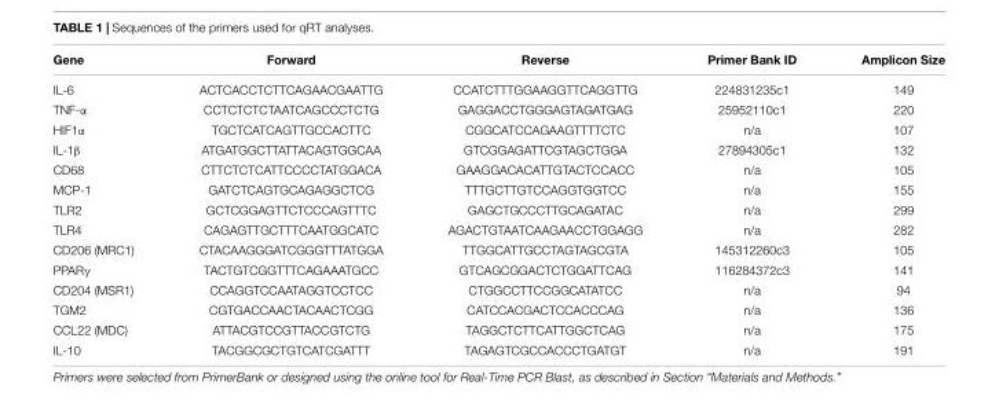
<table><thead><tr><td>Gene</td><td>Forward</td><td>Reverse</td><td>Primer Bank ID</td><td>Amplicon Size</td></tr></thead><tbody><tr><td>IL-6</td><td>ACTCACCTCTTCAGAACGAATTG</td><td>CCATCTTTGGAAGGTTCAGGTTG</td><td>224831235c1</td><td>149</td></tr><tr><td>TNF-α</td><td>CCTCTCTCTAATCAGCCCTCTG</td><td>GAGGACCTGGGAGTAGATGAG</td><td>25952110c1</td><td>220</td></tr><tr><td>HIF1α</td><td>TGCTCATCAGTTGCCACTTC</td><td>CGGCATCCAGAAGTTTTCTC</td><td>n/a</td><td>107</td></tr><tr><td>IL-1β</td><td>ATGATGGCTTATTACAGTGGCAA</td><td>GTCGGAGATTCGTAGCTGGA</td><td>27894305c1</td><td>132</td></tr><tr><td>CD68</td><td>CTTCTCTCATTCCCCTATGGACA</td><td>GAAGGACACATTGTACTCCACC</td><td>n/a</td><td>105</td></tr><tr><td>MCP-1</td><td>GATCTCAGTGCAGAGGCTCG</td><td>TTTGCTTGTCCAGGTGGTCC</td><td>n/a</td><td>155</td></tr><tr><td>TLR2</td><td>GCTCGGAGTTCTCCCAGTTTC</td><td>GAGCTGCCCTTGCAGATAC</td><td>n/a</td><td>299</td></tr><tr><td>TLR4</td><td>CAGAGTTGCTTTCAATGGCATC</td><td>AGACTGTAATCAAGAACCTGGAGG</td><td>n/a</td><td>282</td></tr><tr><td>CD206 (MRC1)</td><td>CTACAAGGGATCGGGTTTATGGA</td><td>TTGGCATTGCCTAGTAGCGTA</td><td>145312260c3</td><td>105</td></tr><tr><td>PPARγ</td><td>TACTGTCGGTTTCAGAAATGCC</td><td>GTCAGCGGACTCTGGATTCAG</td><td>116284372c3</td><td>141</td></tr><tr><td>CD204 (MSR1)</td><td>CCAGGTCCAATAGGTCCTCC</td><td>CTGGCCTTCCGGCATATCC</td><td>n/a</td><td>94</td></tr><tr><td>TGM2</td><td>CGTGACCAACTACAACTCGG</td><td>CATCCACGACTCCACCCAG</td><td>n/a</td><td>136</td></tr><tr><td>CCL22 (MDC)</td><td>ATTACGTCCGTTACCGTCTG</td><td>TAGGCTCTTCATTGGCTCAG</td><td>n/a</td><td>175</td></tr><tr><td>IL-10</td><td>TACGGCGCTGTCATCGATTT</td><td>TAGAGTCGCCACCCTGATGT</td><td>n/a</td><td>191</td></tr></tbody></table>